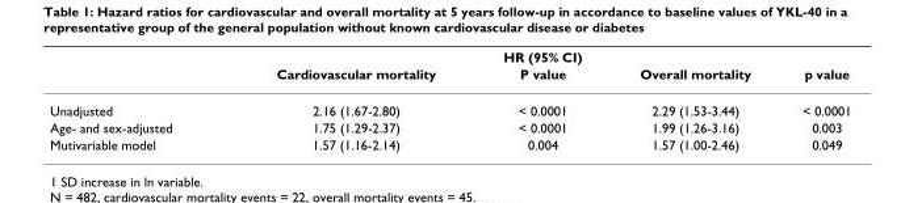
<table><thead><tr><td rowspan="2"></td><td rowspan="2">Cardiovascular mortality</td><td rowspan="2">HR (95% CI) P value</td><td rowspan="2">Overall mortality</td><td rowspan="2">p value</td></tr><tr></tr></thead><tbody><tr><td>Unadjusted</td><td>2.16 (1.67-2.80)</td><td>&lt; 0.0001</td><td>2.29 (1.53-3.44)</td><td>&lt; 0.0001</td></tr><tr><td>Age- and sex-adjusted</td><td>1.75 (1.29-2.37)</td><td>&lt; 0.0001</td><td>1.99 (1.26-3.16)</td><td>0.003</td></tr><tr><td>Mutivariable model</td><td>1.57 (1.16-2.14)</td><td>0.004</td><td>1.57 (1.00-2.46)</td><td>0.049</td></tr></tbody></table>